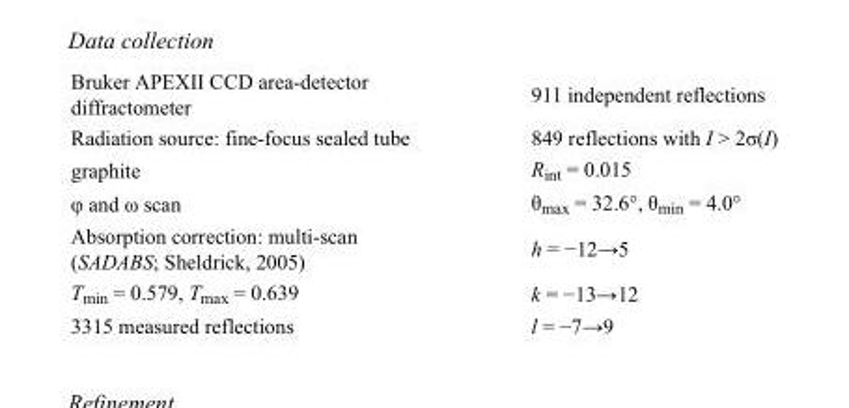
<table><tbody><tr><td>Bruker APEXII CCD area-detector diffractometer</td><td>911 independent reflections</td></tr><tr><td>Radiation source: fine-focus sealed tube</td><td>849 reflections with I &gt; 2σ(I)</td></tr><tr><td>graphite</td><td>R<sub>int</sub> = 0.015</td></tr><tr><td>φ and ω scan</td><td>θ<sub>max</sub> = 32.6°, θ<sub>min</sub> = 4.0°</td></tr><tr><td>Absorption correction: multi-scan (SADABS; Sheldrick, 2005)</td><td>h = −12→5</td></tr><tr><td>T<sub>min</sub> = 0.579, T<sub>max</sub> = 0.639</td><td>k = −13→12</td></tr><tr><td>3315 measured reflections</td><td>l = −7→9</td></tr></tbody></table>